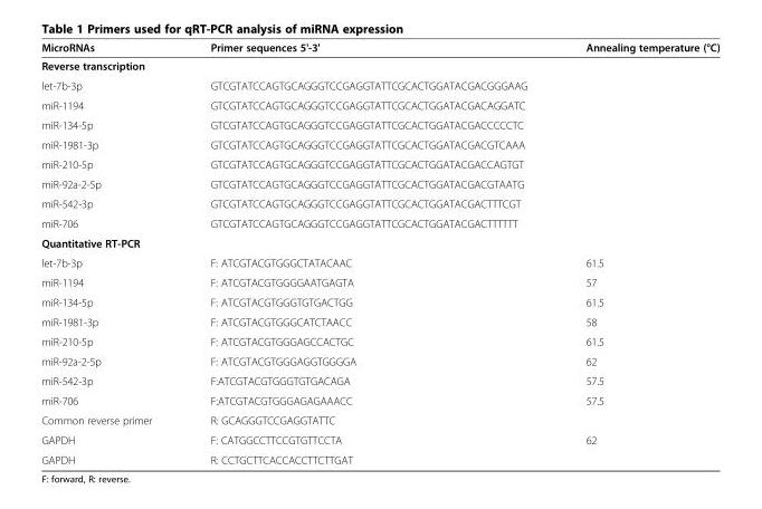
<table><thead><tr><td>MicroRNAs</td><td>Primer sequences 5&#x27;-3&#x27;</td><td>Annealing temperature (°C)</td></tr></thead><tbody><tr><td colspan="3">Reverse transcription</td></tr><tr><td>let-7b-3p</td><td>GTCGTATCCAGTGCAGGGTCCGAGGTATTCGCACTGGATACGACGGGAAG</td><td></td></tr><tr><td>miR-1194</td><td>GTCGTATCCAGTGCAGGGTCCGAGGTATTCGCACTGGATACGACAGGATC</td><td></td></tr><tr><td>miR-134-5p</td><td>GTCGTATCCAGTGCAGGGTCCGAGGTATTCGCACTGGATACGACCCCCTC</td><td></td></tr><tr><td>miR-1981-3p</td><td>GTCGTATCCAGTGCAGGGTCCGAGGTATTCGCACTGGATACGACGTCAAA</td><td></td></tr><tr><td>miR-210-5p</td><td>GTCGTATCCAGTGCAGGGTCCGAGGTATTCGCACTGGATACGACCAGTGT</td><td></td></tr><tr><td>miR-92a-2-5p</td><td>GTCGTATCCAGTGCAGGGTCCGAGGTATTCGCACTGGATACGACGTAATG</td><td></td></tr><tr><td>miR-542-3p</td><td>GTCGTATCCAGTGCAGGGTCCGAGGTATTCGCACTGGATACGACTTTCGT</td><td></td></tr><tr><td>miR-706</td><td>GTCGTATCCAGTGCAGGGTCCGAGGTATTCGCACTGGATACGACTTTTTT</td><td></td></tr><tr><td colspan="3">Quantitative RT-PCR</td></tr><tr><td>let-7b-3p</td><td>F: ATCGTACGTGGGCTATACAAC</td><td>61.5</td></tr><tr><td>miR-1194</td><td>F: ATCGTACGTGGGGAATGAGTA</td><td>57</td></tr><tr><td>miR-134-5p</td><td>F: ATCGTACGTGGGTGTGACTGG</td><td>61.5</td></tr><tr><td>miR-1981-3p</td><td>F: ATCGTACGTGGGCATCTAACC</td><td>58</td></tr><tr><td>miR-210-5p</td><td>F: ATCGTACGTGGGAGCCACTGC</td><td>61.5</td></tr><tr><td>miR-92a-2-5p</td><td>F: ATCGTACGTGGGAGGTGGGGA</td><td>62</td></tr><tr><td>miR-542-3p</td><td>F:ATCGTACGTGGGTGTGACAGA</td><td>57.5</td></tr><tr><td>miR-706</td><td>F:ATCGTACGTGGGAGAGAAACC</td><td>57.5</td></tr><tr><td>Common reverse primer</td><td>R: GCAGGGTCCGAGGTATTC</td><td></td></tr><tr><td>GAPDH</td><td>F: CATGGCCTTCCGTGTTCCTA</td><td>62</td></tr><tr><td>GAPDH</td><td>R: CCTGCTTCACCACCTTCTTGAT</td><td></td></tr></tbody></table>